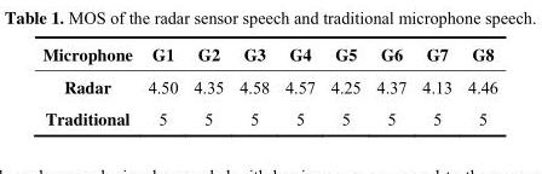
<table><thead><tr><td>Microphone</td><td>G1</td><td>G2</td><td>G3</td><td>G4</td><td>G5</td><td>G6</td><td>G7</td><td>G8</td></tr></thead><tbody><tr><td>Radar</td><td>4.50</td><td>4.35</td><td>4.58</td><td>4.57</td><td>4.25</td><td>4.37</td><td>4.13</td><td>4.46</td></tr><tr><td>Traditional</td><td>5</td><td>5</td><td>5</td><td>5</td><td>5</td><td>5</td><td>5</td><td>5</td></tr></tbody></table>